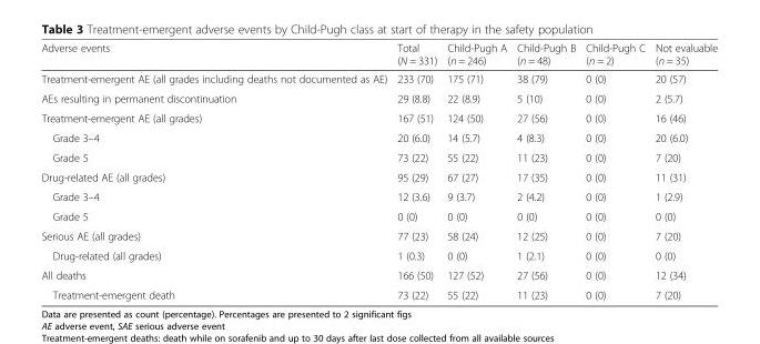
<table><thead><tr><td>Adverse events</td><td>Total (N = 331)</td><td>Child-Pugh A (n = 246)</td><td>Child-Pugh B (n = 48)</td><td>Child-Pugh C (n = 2)</td><td>Not evaluable (n = 35)</td></tr></thead><tbody><tr><td>Treatment-emergent AE (all grades including deaths not documented as AE)</td><td>233 (70)</td><td>175 (71)</td><td>38 (79)</td><td>0 (0)</td><td>20 (57)</td></tr><tr><td>AEs resulting in permanent discontinuation</td><td>29 (8.8)</td><td>22 (8.9)</td><td>5 (10)</td><td>0 (0)</td><td>2 (5.7)</td></tr><tr><td>Treatment-emergent AE (all grades)</td><td>167 (51)</td><td>124 (50)</td><td>27 (56)</td><td>0 (0)</td><td>16 (46)</td></tr><tr><td>Grade 3–4</td><td>20 (6.0)</td><td>14 (5.7)</td><td>4 (8.3)</td><td>0 (0)</td><td>20 (6.0)</td></tr><tr><td>Grade 5</td><td>73 (22)</td><td>55 (22)</td><td>11 (23)</td><td>0 (0)</td><td>7 (20)</td></tr><tr><td>Drug-related AE (all grades)</td><td>95 (29)</td><td>67 (27)</td><td>17 (35)</td><td>0 (0)</td><td>11 (31)</td></tr><tr><td>Grade 3–4</td><td>12 (3.6)</td><td>9 (3.7)</td><td>2 (4.2)</td><td>0 (0)</td><td>1 (2.9)</td></tr><tr><td>Grade 5</td><td>0 (0)</td><td>0 (0)</td><td>0 (0)</td><td>0 (0)</td><td>0 (0)</td></tr><tr><td>Serious AE (all grades)</td><td>77 (23)</td><td>58 (24)</td><td>12 (25)</td><td>0 (0)</td><td>7 (20)</td></tr><tr><td>Drug-related (all grades)</td><td>1 (0.3)</td><td>0 (0)</td><td>1 (2.1)</td><td>0 (0)</td><td>0 (0)</td></tr><tr><td>All deaths</td><td>166 (50)</td><td>127 (52)</td><td>27 (56)</td><td>0 (0)</td><td>12 (34)</td></tr><tr><td>Treatment-emergent death</td><td>73 (22)</td><td>55 (22)</td><td>11 (23)</td><td>0 (0)</td><td>7 (20)</td></tr></tbody></table>